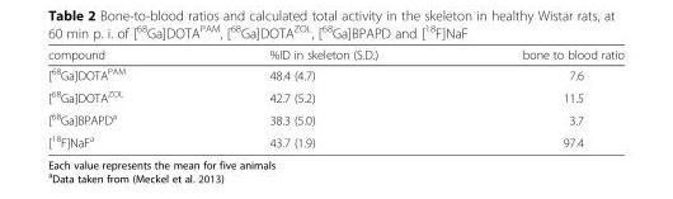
<table><thead><tr><td>compound</td><td>%ID in skeleton (S.D.)</td><td>bone to blood ratio</td></tr></thead><tbody><tr><td>[<sup>68</sup>Ga]DOTA<sup>PAM</sup></td><td>48.4 (4.7)</td><td>7.6</td></tr><tr><td>[<sup>68</sup>Ga]DOTA<sup>ZOL</sup></td><td>42.7 (5.2)</td><td>11.5</td></tr><tr><td>[<sup>68</sup>Ga]BPAPD<sup>a</sup></td><td>38.3 (5.0)</td><td>3.7</td></tr><tr><td>[<sup>18</sup>F]NaF<sup>a</sup></td><td>43.7 (1.9)</td><td>97.4</td></tr></tbody></table>